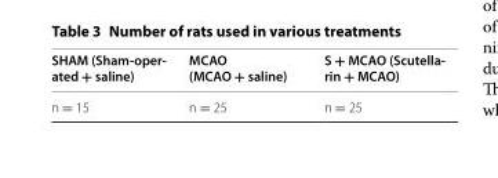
<table><thead><tr><td>SHAM (Sham‑oper‑ ated + saline)</td><td>MCAO (MCAO + saline)</td><td>S + MCAO (Scutella‑ rin + MCAO)</td></tr></thead><tbody><tr><td>n = 15</td><td>n = 25</td><td>n = 25</td></tr></tbody></table>